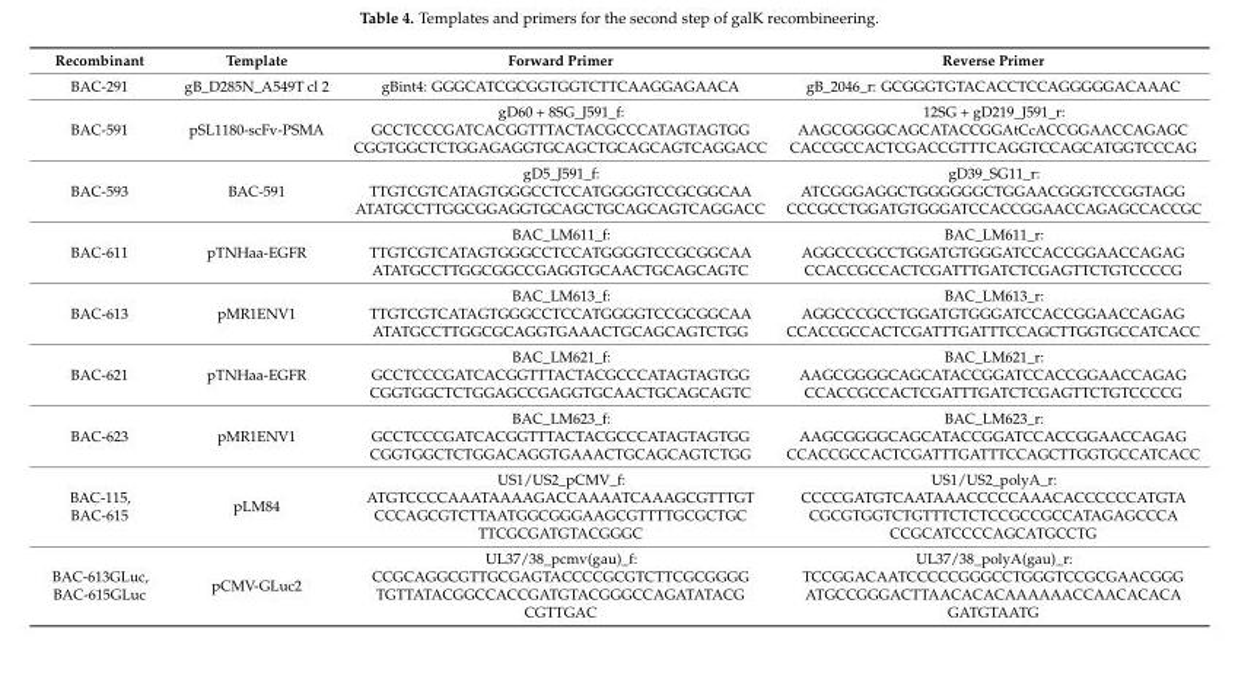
<table><thead><tr><td>Recombinant</td><td>Template</td><td>Forward Primer</td><td>Reverse Primer</td></tr></thead><tbody><tr><td>BAC-291</td><td>gB_D285N_A549T cl 2</td><td>gBint4: GGGCATCGCGGTGGTCTTCAAGGAGAACA</td><td>gB_2046_r: GCGGGTGTACACCTCCAGGGGGACAAAC</td></tr><tr><td>BAC-591</td><td>pSL1180-scFv-PSMA</td><td>gD60 + 8SG_J591_f: GCCTCCCGATCACGGTTTACTACGCCCATAGTAGTGG CGGTGGCTCTGGAGAGGTGCAGCTGCAGCAGTCAGGACC</td><td>12SG + gD219_J591_r: AAGCGGGGCAGCATACCGGAtCcACCGGAACCAGAGC CACCGCCACTCGACCGTTTCAGGTCCAGCATGGTCCCAG</td></tr><tr><td>BAC-593</td><td>BAC-591</td><td>gD5_J591_f: TTGTCGTCATAGTGGGCCTCCATGGGGTCCGCGGCAA ATATGCCTTGGCGGAGGTGCAGCTGCAGCAGTCAGGACC</td><td>gD39_SG11_r: ATCGGGAGGCTGGGGGGCTGGAACGGGTCCGGTAGG CCCGCCTGGATGTGGGATCCACCGGAACCAGAGCCACCGC</td></tr><tr><td>BAC-611</td><td>pTNHaa-EGFR</td><td>BAC_LM611_f: TTGTCGTCATAGTGGGCCTCCATGGGGTCCGCGGCAA ATATGCCTTGGCGGCCGAGGTGCAACTGCAGCAGTC</td><td>BAC_LM611_r: AGGCCCGCCTGGATGTGGGATCCACCGGAACCAGAG CCACCGCCACTCGATTTGATCTCGAGTTCTGTCCCCG</td></tr><tr><td>BAC-613</td><td>pMR1ENV1</td><td>BAC_LM613_f: TTGTCGTCATAGTGGGCCTCCATGGGGTCCGCGGCAA ATATGCCTTGGCGCAGGTGAAACTGCAGCAGTCTGG</td><td>BAC_LM613_r: AGGCCCGCCTGGATGTGGGATCCACCGGAACCAGAG CCACCGCCACTCGATTTGATTTCCAGCTTGGTGCCATCACC</td></tr><tr><td>BAC-621</td><td>pTNHaa-EGFR</td><td>BAC_LM621_f: GCCTCCCGATCACGGTTTACTACGCCCATAGTAGTGG CGGTGGCTCTGGAGCCGAGGTGCAACTGCAGCAGTC</td><td>BAC_LM621_r: AAGCGGGGCAGCATACCGGATCCACCGGAACCAGAG CCACCGCCACTCGATTTGATCTCGAGTTCTGTCCCCG</td></tr><tr><td>BAC-623</td><td>pMR1ENV1</td><td>BAC_LM623_f: GCCTCCCGATCACGGTTTACTACGCCCATAGTAGTGG CGGTGGCTCTGGACAGGTGAAACTGCAGCAGTCTGG</td><td>BAC_LM623_r: AAGCGGGGCAGCATACCGGATCCACCGGAACCAGAG CCACCGCCACTCGATTTGATTTCCAGCTTGGTGCCATCACC</td></tr><tr><td>BAC-115, BAC-615</td><td>pLM84</td><td>US1/US2_pCMV_f: ATGTCCCCAAATAAAAGACCAAAATCAAAGCGTTTGT CCCAGCGTCTTAATGGCGGGAAGCGTTTTGCGCTGC TTCGCGATGTACGGGC</td><td>US1/US2_polyA_r: CCCCGATGTCAATAAACCCCCAAACACCCCCCATGTA CGCGTGGTCTGTTTCTCTCCGCCGCCATAGAGCCCA CCGCATCCCCAGCATGCCTG</td></tr><tr><td>BAC-613GLuc, BAC-615GLuc</td><td>pCMV-GLuc2</td><td>UL37/38_pcmv(gau)_f: CCGCAGGCGTTGCGAGTACCCCGCGTCTTCGCGGGG TGTTATACGGCCACCGATGTACGGGCCAGATATACG CGTTGAC</td><td>UL37/38_polyA(gau)_r: TCCGGACAATCCCCCGGGCCTGGGTCCGCGAACGGG ATGCCGGGACTTAACACACAAAAAACCAACACACA GATGTAATG</td></tr></tbody></table>